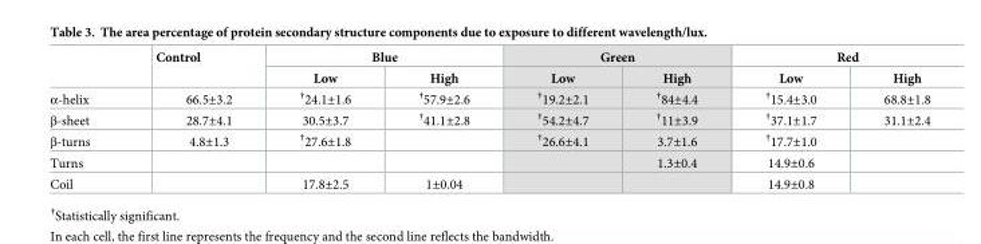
<table><thead><tr><td rowspan="2"></td><td rowspan="2">Control</td><td colspan="2">Blue</td><td colspan="2">Green</td><td colspan="2">Red</td></tr><tr><td>Low</td><td>High</td><td>Low</td><td>High</td><td>Low</td><td>High</td></tr></thead><tbody><tr><td>α-helix</td><td>66.5±3.2</td><td><sup>†</sup>24.1±1.6</td><td><sup>†</sup>57.9±2.6</td><td><sup>†</sup>19.2±2.1</td><td><sup>†</sup>84±4.4</td><td><sup>†</sup>15.4±3.0</td><td>68.8±1.8</td></tr><tr><td>β-sheet</td><td>28.7±4.1</td><td>30.5±3.7</td><td><sup>†</sup>41.1±2.8</td><td><sup>†</sup>54.2±4.7</td><td><sup>†</sup>11±3.9</td><td><sup>†</sup>37.1±1.7</td><td>31.1±2.4</td></tr><tr><td>β-turns</td><td>4.8±1.3</td><td><sup>†</sup>27.6±1.8</td><td></td><td><sup>†</sup>26.6±4.1</td><td>3.7±1.6</td><td><sup>†</sup>17.7±1.0</td><td></td></tr><tr><td>Turns</td><td></td><td></td><td></td><td></td><td>1.3±0.4</td><td>14.9±0.6</td><td></td></tr><tr><td>Coil</td><td></td><td>17.8±2.5</td><td>1±0.04</td><td></td><td></td><td>14.9±0.8</td><td></td></tr></tbody></table>